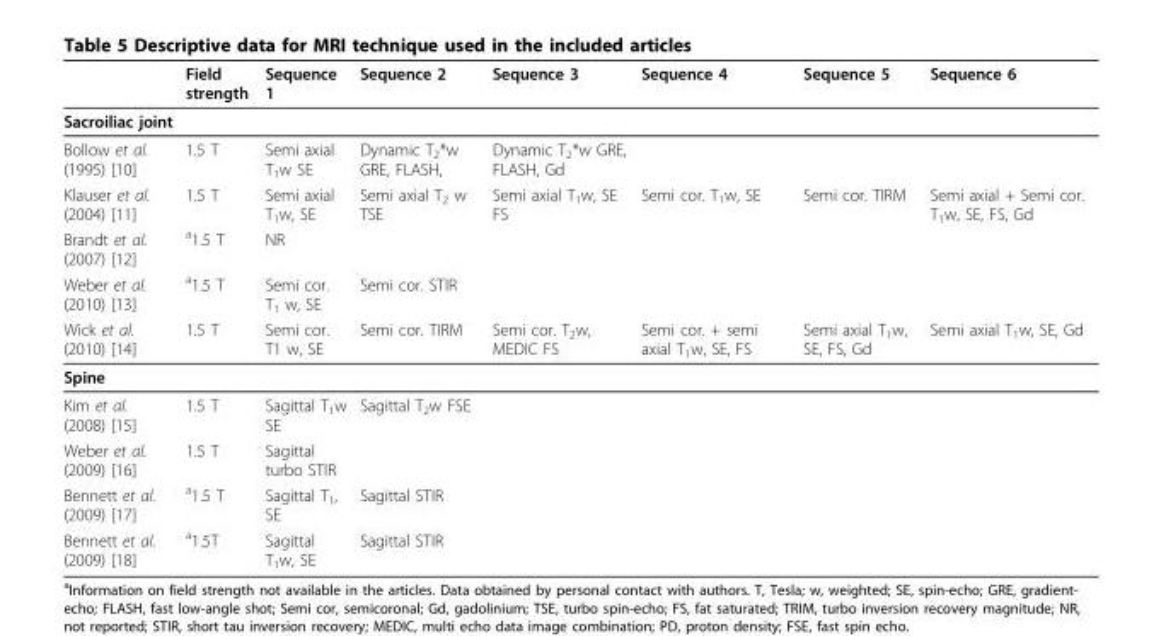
<table><thead><tr><td></td><td>Field strength</td><td>Sequence 1</td><td>Sequence 2</td><td>Sequence 3</td><td>Sequence 4</td><td>Sequence 5</td><td>Sequence 6</td></tr></thead><tbody><tr><td colspan="8">Sacroiliac joint</td></tr><tr><td>Bollow et al. (1995) [10]</td><td>1.5 T</td><td>Semi axial T<sub>1</sub>w SE</td><td>Dynamic T<sub>2</sub>*w GRE, FLASH,</td><td>Dynamic T<sub>2</sub>*w GRE, FLASH, Gd</td><td></td><td></td><td></td></tr><tr><td>Klauser et al. (2004) [11]</td><td>1.5 T</td><td>Semi axial T<sub>1</sub>w, SE</td><td>Semi axial T<sub>2</sub> w TSE</td><td>Semi axial T<sub>1</sub>w, SE FS</td><td>Semi cor. T<sub>1</sub>w, SE</td><td>Semi cor. TIRM</td><td>Semi axial + Semi cor. T<sub>1</sub>w, SE, FS, Gd</td></tr><tr><td>Brandt et al. (2007) [12]</td><td><sup>a</sup>1.5 T</td><td>NR</td><td></td><td></td><td></td><td></td><td></td></tr><tr><td>Weber et al. (2010) [13]</td><td><sup>a</sup>1.5 T</td><td>Semi cor. T<sub>1</sub> w, SE</td><td>Semi cor. STIR</td><td></td><td></td><td></td><td></td></tr><tr><td>Wick et al. (2010) [14]</td><td>1.5 T</td><td>Semi cor. T1 w, SE</td><td>Semi cor. TIRM</td><td>Semi cor. T<sub>2</sub>w, MEDIC FS</td><td>Semi cor. + semi axial T<sub>1</sub>w, SE, FS</td><td>Semi axial T<sub>1</sub>w, SE, FS, Gd</td><td>Semi axial T<sub>1</sub>w, SE, Gd</td></tr><tr><td colspan="8">Spine</td></tr><tr><td>Kim et al. (2008) [15]</td><td>1.5 T</td><td>Sagittal T<sub>1</sub>w SE</td><td>Sagittal T<sub>2</sub>w FSE</td><td></td><td></td><td></td><td></td></tr><tr><td>Weber et al. (2009) [16]</td><td>1.5 T</td><td>Sagittal turbo STIR</td><td></td><td></td><td></td><td></td><td></td></tr><tr><td>Bennett et al. (2009) [17]</td><td><sup>a</sup>1.5 T</td><td>Sagittal T<sub>1</sub>, SE</td><td>Sagittal STIR</td><td></td><td></td><td></td><td></td></tr><tr><td>Bennett et al. (2009) [18]</td><td><sup>a</sup>1.5T</td><td>Sagittal T<sub>1</sub>w, SE</td><td>Sagittal STIR</td><td></td><td></td><td></td><td></td></tr></tbody></table>